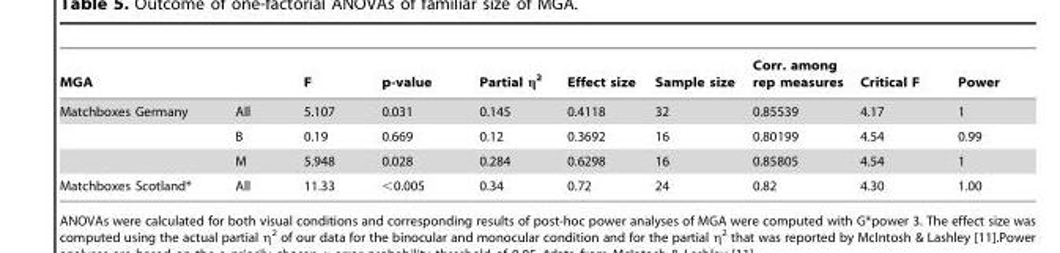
<table><thead><tr><td>MGA</td><td></td><td>F</td><td>p-value</td><td>Partial η<sup>2</sup></td><td>Effect size</td><td>Sample size</td><td>Corr. among rep measures</td><td>Critical F</td><td>Power</td></tr></thead><tbody><tr><td rowspan="3">Matchboxes Germany</td><td>All</td><td>5.107</td><td>0.031</td><td>0.145</td><td>0.4118</td><td>32</td><td>0.85539</td><td>4.17</td><td>1</td></tr><tr><td>B</td><td>0.19</td><td>0.669</td><td>0.12</td><td>0.3692</td><td>16</td><td>0.80199</td><td>4.54</td><td>0.99</td></tr><tr><td>M</td><td>5.948</td><td>0.028</td><td>0.284</td><td>0.6298</td><td>16</td><td>0.85805</td><td>4.54</td><td>1</td></tr><tr><td>Matchboxes Scotland*</td><td>All</td><td>11.33</td><td>&lt;0.005</td><td>0.34</td><td>0.72</td><td>24</td><td>0.82</td><td>4.30</td><td>1.00</td></tr></tbody></table>